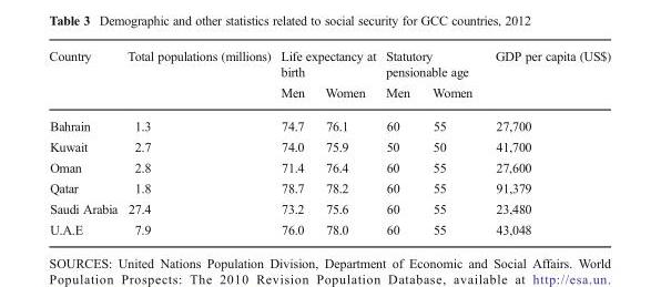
<table><thead><tr><td rowspan="2">Country</td><td rowspan="2">Total populations (millions)</td><td colspan="2">Life expectancy at birth</td><td colspan="2">Statutory pensionable age</td><td rowspan="2">GDP per capita (US$)</td></tr><tr><td>Men</td><td>Women</td><td>Men</td><td>Women</td></tr></thead><tbody><tr><td>Bahrain</td><td>1.3</td><td>74.7</td><td>76.1</td><td>60</td><td>55</td><td>27,700</td></tr><tr><td>Kuwait</td><td>2.7</td><td>74.0</td><td>75.9</td><td>50</td><td>50</td><td>41,700</td></tr><tr><td>Oman</td><td>2.8</td><td>71.4</td><td>76.4</td><td>60</td><td>55</td><td>27,600</td></tr><tr><td>Qatar</td><td>1.8</td><td>78.7</td><td>78.2</td><td>60</td><td>55</td><td>91,379</td></tr><tr><td>Saudi Arabia</td><td>27.4</td><td>73.2</td><td>75.6</td><td>60</td><td>55</td><td>23,480</td></tr><tr><td>U.A.E</td><td>7.9</td><td>76.0</td><td>78.0</td><td>60</td><td>55</td><td>43,048</td></tr></tbody></table>